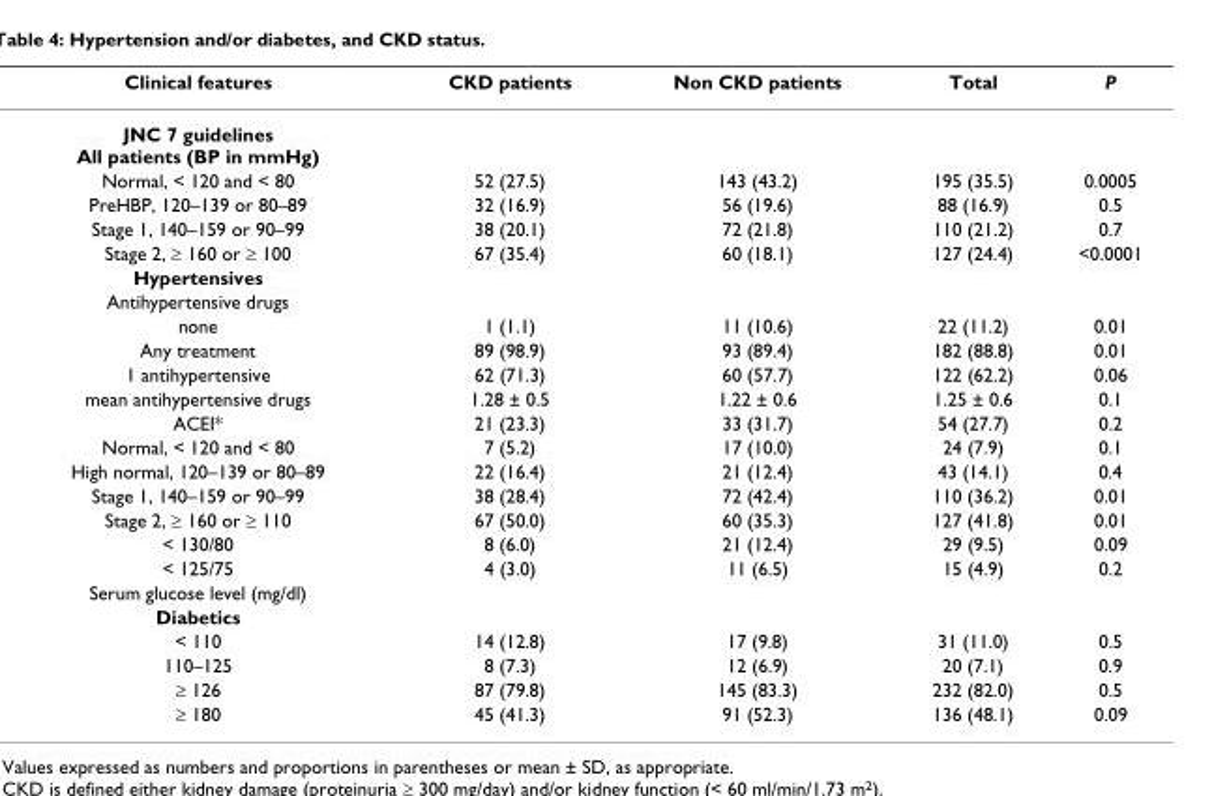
<table><thead><tr><td>Clinical features</td><td>CKD patients</td><td>Non CKD patients</td><td>Total</td><td>P</td></tr></thead><tbody><tr><td colspan="5">JNC 7 guidelines All patients (BP in mmHg)</td></tr><tr><td>Normal, &lt; 120 and &lt; 80</td><td>52 (27.5)</td><td>143 (43.2)</td><td>195 (35.5)</td><td>0.0005</td></tr><tr><td>PreHBP, 120–139 or 80–89</td><td>32 (16.9)</td><td>56 (19.6)</td><td>88 (16.9)</td><td>0.5</td></tr><tr><td>Stage 1, 140–159 or 90–99</td><td>38 (20.1)</td><td>72 (21.8)</td><td>110 (21.2)</td><td>0.7</td></tr><tr><td>Stage 2, ≥ 160 or ≥ 100</td><td>67 (35.4)</td><td>60 (18.1)</td><td>127 (24.4)</td><td>&lt;0.0001</td></tr><tr><td colspan="5">Hypertensives</td></tr><tr><td colspan="5">Antihypertensive drugs</td></tr><tr><td>none</td><td>1 (1.1)</td><td>11 (10.6)</td><td>22 (11.2)</td><td>0.01</td></tr><tr><td>Any treatment</td><td>89 (98.9)</td><td>93 (89.4)</td><td>182 (88.8)</td><td>0.01</td></tr><tr><td>1 antihypertensive</td><td>62 (71.3)</td><td>60 (57.7)</td><td>122 (62.2)</td><td>0.06</td></tr><tr><td>mean antihypertensive drugs</td><td>1.28 ± 0.5</td><td>1.22 ± 0.6</td><td>1.25 ± 0.6</td><td>0.1</td></tr><tr><td>ACEI*</td><td>21 (23.3)</td><td>33 (31.7)</td><td>54 (27.7)</td><td>0.2</td></tr><tr><td>Normal, &lt; 120 and &lt; 80</td><td>7 (5.2)</td><td>17 (10.0)</td><td>24 (7.9)</td><td>0.1</td></tr><tr><td>High normal, 120–139 or 80–89</td><td>22 (16.4)</td><td>21 (12.4)</td><td>43 (14.1)</td><td>0.4</td></tr><tr><td>Stage 1, 140–159 or 90–99</td><td>38 (28.4)</td><td>72 (42.4)</td><td>110 (36.2)</td><td>0.01</td></tr><tr><td>Stage 2, ≥ 160 or ≥ 110</td><td>67 (50.0)</td><td>60 (35.3)</td><td>127 (41.8)</td><td>0.01</td></tr><tr><td>&lt; 130/80</td><td>8 (6.0)</td><td>21 (12.4)</td><td>29 (9.5)</td><td>0.09</td></tr><tr><td>&lt; 125/75</td><td>4 (3.0)</td><td>11 (6.5)</td><td>15 (4.9)</td><td>0.2</td></tr><tr><td colspan="5">Serum glucose level (mg/dl)</td></tr><tr><td colspan="5">Diabetics</td></tr><tr><td>&lt; 110</td><td>14 (12.8)</td><td>17 (9.8)</td><td>31 (11.0)</td><td>0.5</td></tr><tr><td>110–125</td><td>8 (7.3)</td><td>12 (6.9)</td><td>20 (7.1)</td><td>0.9</td></tr><tr><td>≥ 126</td><td>87 (79.8)</td><td>145 (83.3)</td><td>232 (82.0)</td><td>0.5</td></tr><tr><td>≥ 180</td><td>45 (41.3)</td><td>91 (52.3)</td><td>136 (48.1)</td><td>0.09</td></tr></tbody></table>